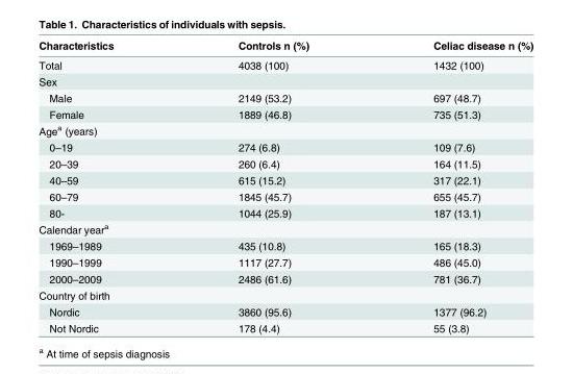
<table><thead><tr><td>Characteristics</td><td>Controls n (%)</td><td>Celiac disease n (%)</td></tr></thead><tbody><tr><td>Total</td><td>4038 (100)</td><td>1432 (100)</td></tr><tr><td colspan="3">Sex</td></tr><tr><td>Male</td><td>2149 (53.2)</td><td>697 (48.7)</td></tr><tr><td>Female</td><td>1889 (46.8)</td><td>735 (51.3)</td></tr><tr><td colspan="3">Age<sup>a</sup> (years)</td></tr><tr><td>0–19</td><td>274 (6.8)</td><td>109 (7.6)</td></tr><tr><td>20–39</td><td>260 (6.4)</td><td>164 (11.5)</td></tr><tr><td>40–59</td><td>615 (15.2)</td><td>317 (22.1)</td></tr><tr><td>60–79</td><td>1845 (45.7)</td><td>655 (45.7)</td></tr><tr><td>80-</td><td>1044 (25.9)</td><td>187 (13.1)</td></tr><tr><td colspan="3">Calendar year<sup>a</sup></td></tr><tr><td>1969–1989</td><td>435 (10.8)</td><td>165 (18.3)</td></tr><tr><td>1990–1999</td><td>1117 (27.7)</td><td>486 (45.0)</td></tr><tr><td>2000–2009</td><td>2486 (61.6)</td><td>781 (36.7)</td></tr><tr><td colspan="3">Country of birth</td></tr><tr><td>Nordic</td><td>3860 (95.6)</td><td>1377 (96.2)</td></tr><tr><td>Not Nordic</td><td>178 (4.4)</td><td>55 (3.8)</td></tr></tbody></table>